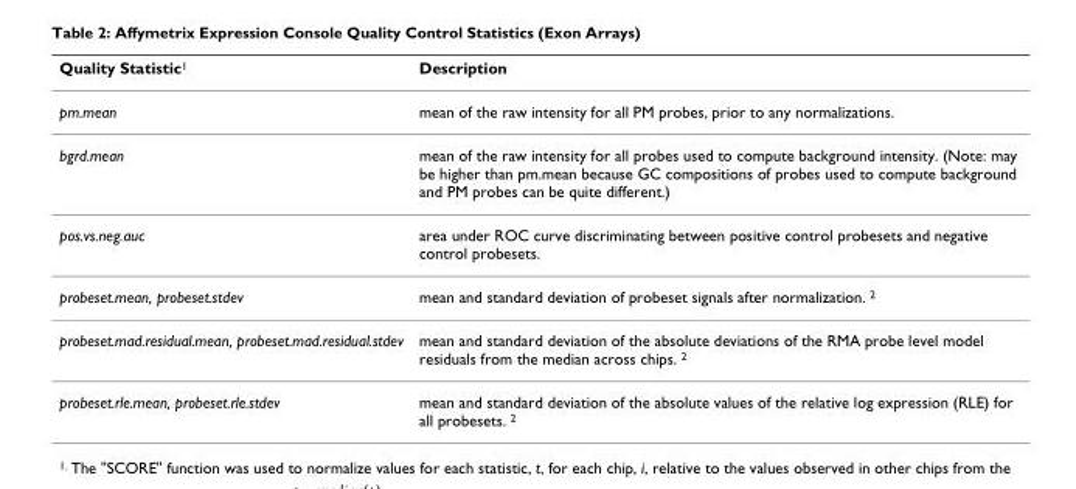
<table><thead><tr><td>Quality Statistic<sup>1</sup></td><td>Description</td></tr></thead><tbody><tr><td>pm.mean</td><td>mean of the raw intensity for all PM probes, prior to any normalizations.</td></tr><tr><td>bgrd.mean</td><td>mean of the raw intensity for all probes used to compute background intensity. (Note: may be higher than pm.mean because GC compositions of probes used to compute background and PM probes can be quite different.)</td></tr><tr><td>pos.vs.neg.auc</td><td>area under ROC curve discriminating between positive control probesets and negative control probesets.</td></tr><tr><td>probeset.mean, probeset.stdev</td><td>mean and standard deviation of probeset signals after normalization. <sup>2</sup></td></tr><tr><td>probeset.mad.residual.mean, probeset.mad.residual.stdev</td><td>mean and standard deviation of the absolute deviations of the RMA probe level model residuals from the median across chips. <sup>2</sup></td></tr><tr><td>probeset.rle.mean, probeset.rle.stdev</td><td>mean and standard deviation of the absolute values of the relative log expression (RLE) for all probesets. <sup>2</sup></td></tr></tbody></table>